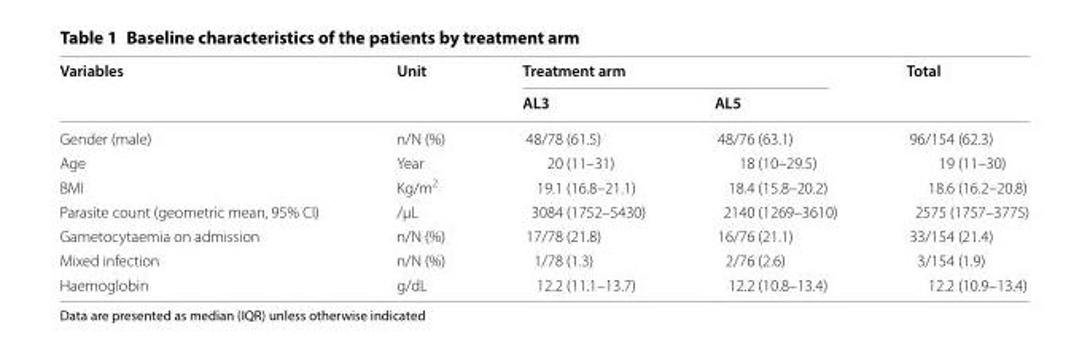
<table><thead><tr><td rowspan="2">Variables</td><td rowspan="2">Unit</td><td colspan="2">Treatment arm</td><td rowspan="2">Total</td></tr><tr><td>AL3</td><td>AL5</td></tr></thead><tbody><tr><td>Gender (male)</td><td>n/N (%)</td><td>48/78 (61.5)</td><td>48/76 (63.1)</td><td>96/154 (62.3)</td></tr><tr><td>Age</td><td>Year</td><td>20 (11–31)</td><td>18 (10–29.5)</td><td>19 (11–30)</td></tr><tr><td>BMI</td><td>Kg/m<sup>2</sup></td><td>19.1 (16.8–21.1)</td><td>18.4 (15.8–20.2)</td><td>18.6 (16.2–20.8)</td></tr><tr><td>Parasite count (geometric mean, 95% CI)</td><td>/µL</td><td>3084 (1752–5430)</td><td>2140 (1269–3610)</td><td>2575 (1757–3775)</td></tr><tr><td>Gametocytaemia on admission</td><td>n/N (%)</td><td>17/78 (21.8)</td><td>16/76 (21.1)</td><td>33/154 (21.4)</td></tr><tr><td>Mixed infection</td><td>n/N (%)</td><td>1/78 (1.3)</td><td>2/76 (2.6)</td><td>3/154 (1.9)</td></tr><tr><td>Haemoglobin</td><td>g/dL</td><td>12.2 (11.1–13.7)</td><td>12.2 (10.8–13.4)</td><td>12.2 (10.9–13.4)</td></tr></tbody></table>